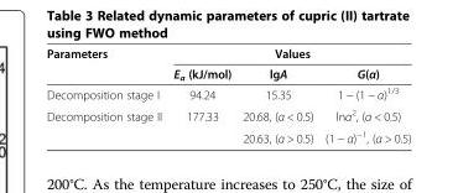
<table><thead><tr><td rowspan="2">Parameters</td><td colspan="3">Values</td></tr><tr><td>E<sub>a</sub> (kJ/mol)</td><td>lgA</td><td>G(α)</td></tr></thead><tbody><tr><td>Decomposition stage I</td><td>94.24</td><td>15.35</td><td>1 − (1 − α)<sup>1/3</sup></td></tr><tr><td rowspan="2">Decomposition stage II</td><td>177.33</td><td>20.68, (α &lt; 0.5)</td><td>lnα<sup>2</sup>, (α &lt; 0.5)</td></tr><tr><td></td><td>20.63, (α &gt; 0.5)</td><td>(1 − α)<sup>−1</sup>, (α &gt; 0.5)</td></tr></tbody></table>